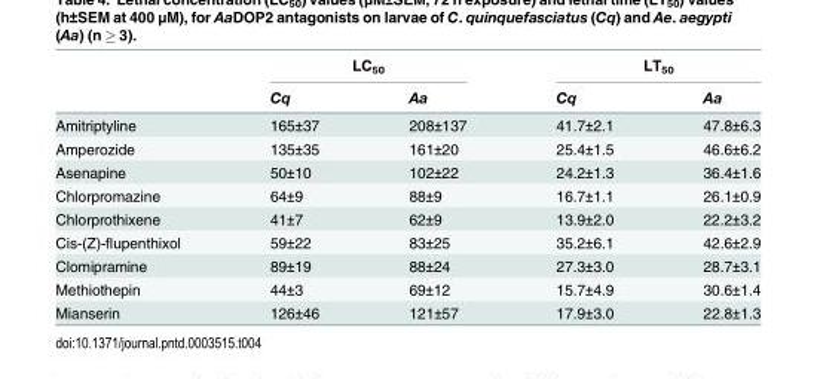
<table><thead><tr><td rowspan="2"></td><td colspan="2">LC<sub>50</sub></td><td colspan="2">LT<sub>50</sub></td></tr><tr><td>Cq</td><td>Aa</td><td>Cq</td><td>Aa</td></tr></thead><tbody><tr><td>Amitriptyline</td><td>165±37</td><td>208±137</td><td>41.7±2.1</td><td>47.8±6.3</td></tr><tr><td>Amperozide</td><td>135±35</td><td>161±20</td><td>25.4±1.5</td><td>46.6±6.2</td></tr><tr><td>Asenapine</td><td>50±10</td><td>102±22</td><td>24.2±1.3</td><td>36.4±1.6</td></tr><tr><td>Chlorpromazine</td><td>64±9</td><td>88±9</td><td>16.7±1.1</td><td>26.1±0.9</td></tr><tr><td>Chlorprothixene</td><td>41±7</td><td>62±9</td><td>13.9±2.0</td><td>22.2±3.2</td></tr><tr><td>Cis-(Z)-flupenthixol</td><td>59±22</td><td>83±25</td><td>35.2±6.1</td><td>42.6±2.9</td></tr><tr><td>Clomipramine</td><td>89±19</td><td>88±24</td><td>27.3±3.0</td><td>28.7±3.1</td></tr><tr><td>Methiothepin</td><td>44±3</td><td>69±12</td><td>15.7±4.9</td><td>30.6±1.4</td></tr><tr><td>Mianserin</td><td>126±46</td><td>121±57</td><td>17.9±3.0</td><td>22.8±1.3</td></tr></tbody></table>